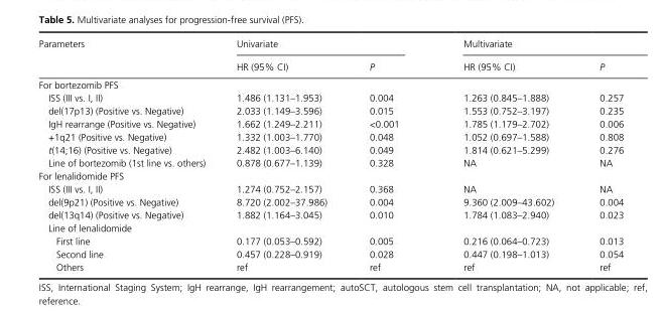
<table><thead><tr><td rowspan="2">Parameters</td><td colspan="2">Univariate</td><td colspan="2">Multivariate</td></tr><tr><td>HR (95% CI)</td><td>P</td><td>HR (95% CI)</td><td>P</td></tr></thead><tbody><tr><td colspan="5">For bortezomib PFS</td></tr><tr><td>ISS (III vs. I, II)</td><td>1.486 (1.131–1.953)</td><td>0.004</td><td>1.263 (0.845–1.888)</td><td>0.257</td></tr><tr><td>del(17p13) (Positive vs. Negative)</td><td>2.033 (1.149–3.596)</td><td>0.015</td><td>1.553 (0.752–3.197)</td><td>0.235</td></tr><tr><td>IgH rearrange (Positive vs. Negative)</td><td>1.662 (1.249–2.211)</td><td>&lt;0.001</td><td>1.785 (1.179–2.702)</td><td>0.006</td></tr><tr><td>+1q21 (Positive vs. Negative)</td><td>1.332 (1.003–1.770)</td><td>0.048</td><td>1.052 (0.697–1.588)</td><td>0.808</td></tr><tr><td>t(14;16) (Positive vs. Negative)</td><td>2.482 (1.003–6.140)</td><td>0.049</td><td>1.814 (0.621–5.299)</td><td>0.276</td></tr><tr><td>Line of bortezomib (1st line vs. others)</td><td>0.878 (0.677–1.139)</td><td>0.328</td><td>NA</td><td>NA</td></tr><tr><td colspan="5">For lenalidomide PFS</td></tr><tr><td>ISS (III vs. I, II)</td><td>1.274 (0.752–2.157)</td><td>0.368</td><td>NA</td><td>NA</td></tr><tr><td>del(9p21) (Positive vs. Negative)</td><td>8.720 (2.002–37.986)</td><td>0.004</td><td>9.360 (2.009–43.602)</td><td>0.004</td></tr><tr><td>del(13q14) (Positive vs. Negative)</td><td>1.882 (1.164–3.045)</td><td>0.010</td><td>1.784 (1.083–2.940)</td><td>0.023</td></tr><tr><td colspan="5">Line of lenalidomide</td></tr><tr><td>First line</td><td>0.177 (0.053–0.592)</td><td>0.005</td><td>0.216 (0.064–0.723)</td><td>0.013</td></tr><tr><td>Second line</td><td>0.457 (0.228–0.919)</td><td>0.028</td><td>0.447 (0.198–1.013)</td><td>0.054</td></tr><tr><td>Others</td><td>ref</td><td>ref</td><td>ref</td><td>ref</td></tr></tbody></table>